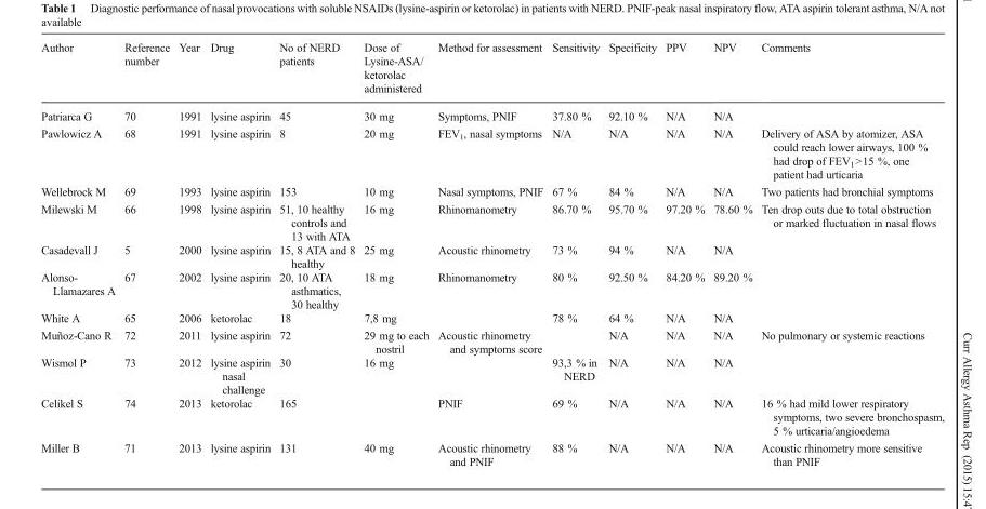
<table><thead><tr><td>Author</td><td>Reference number</td><td>Year</td><td>Drug</td><td>No of NERD patients</td><td>Dose of Lysine-ASA/ ketorolac administered</td><td>Method for assessment</td><td>Sensitivity</td><td>Specificity</td><td>PPV</td><td>NPV</td><td>Comments</td></tr></thead><tbody><tr><td>Patriarca G</td><td>70</td><td>1991</td><td>lysine aspirin</td><td>45</td><td>30 mg</td><td>Symptoms, PNIF</td><td>37.80 %</td><td>92.10 %</td><td>N/A</td><td>N/A</td><td></td></tr><tr><td>Pawlowicz A</td><td>68</td><td>1991</td><td>lysine aspirin</td><td>8</td><td>20 mg</td><td>FEV<sub>1</sub>, nasal symptoms</td><td>N/A</td><td>N/A</td><td>N/A</td><td>N/A</td><td>Delivery of ASA by atomizer, ASA could reach lower airways, 100 % had drop of FEV<sub>1</sub>&gt;15 %, one patient had urticaria</td></tr><tr><td>Wellebrock M</td><td>69</td><td>1993</td><td>lysine aspirin</td><td>153</td><td>10 mg</td><td>Nasal symptoms, PNIF</td><td>67 %</td><td>84 %</td><td>N/A</td><td>N/A</td><td>Two patients had bronchial symptoms</td></tr><tr><td>Milewski M</td><td>66</td><td>1998</td><td>lysine aspirin</td><td>51, 10 healthy controls and 13 with ATA</td><td>16 mg</td><td>Rhinomanometry</td><td>86.70 %</td><td>95.70 %</td><td>97.20 %</td><td>78.60 %</td><td>Ten drop outs due to total obstruction or marked fluctuation in nasal flows</td></tr><tr><td>Casadevall J</td><td>5</td><td>2000</td><td>lysine aspirin</td><td>15, 8 ATA and 8 healthy</td><td>25 mg</td><td>Acoustic rhinometry</td><td>73 %</td><td>94 %</td><td>N/A</td><td>N/A</td><td></td></tr><tr><td>Alonso- Llamazares A</td><td>67</td><td>2002</td><td>lysine aspirin</td><td>20, 10 ATA asthmatics, 30 healthy</td><td>18 mg</td><td>Rhinomanometry</td><td>80 %</td><td>92.50 %</td><td>84.20 %</td><td>89.20 %</td><td></td></tr><tr><td>White A</td><td>65</td><td>2006</td><td>ketorolac</td><td>18</td><td>7,8 mg</td><td></td><td>78 %</td><td>64 %</td><td>N/A</td><td>N/A</td><td></td></tr><tr><td>Muñoz-Cano R</td><td>72</td><td>2011</td><td>lysine aspirin</td><td>72</td><td>29 mg to each nostril</td><td>Acoustic rhinometry and symptoms score</td><td></td><td>N/A</td><td>N/A</td><td>N/A</td><td>No pulmonary or systemic reactions</td></tr><tr><td>Wismol P</td><td>73</td><td>2012</td><td>lysine aspirin nasal challenge</td><td>30</td><td>16 mg</td><td></td><td>93,3 % in NERD</td><td>N/A</td><td>N/A</td><td>N/A</td><td></td></tr><tr><td>Celikel S</td><td>74</td><td>2013</td><td>ketorolac</td><td>165</td><td></td><td>PNIF</td><td>69 %</td><td>N/A</td><td>N/A</td><td>N/A</td><td>16 % had mild lower respiratory symptoms, two severe bronchospasm, 5 % urticaria/angioedema</td></tr><tr><td>Miller B</td><td>71</td><td>2013</td><td>lysine aspirin</td><td>131</td><td>40 mg</td><td>Acoustic rhinometry and PNIF</td><td>88 %</td><td>N/A</td><td>N/A</td><td>N/A</td><td>Acoustic rhinometry more sensitive than PNIF</td></tr></tbody></table>